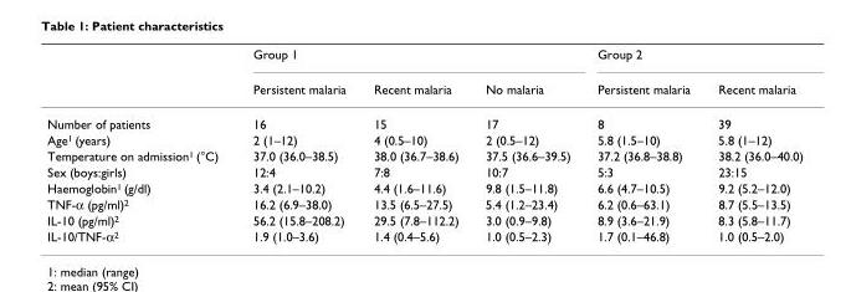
<table><thead><tr><td rowspan="2"></td><td colspan="3">Group 1</td><td colspan="2">Group 2</td></tr><tr><td>Persistent malaria</td><td>Recent malaria</td><td>No malaria</td><td>Persistent malaria</td><td>Recent malaria</td></tr></thead><tbody><tr><td>Number of patients</td><td>16</td><td>15</td><td>17</td><td>8</td><td>39</td></tr><tr><td>Age<sup>1</sup> (years)</td><td>2 (1–12)</td><td>4 (0.5–10)</td><td>2 (0.5–12)</td><td>5.8 (1.5–10)</td><td>5.8 (1–12)</td></tr><tr><td>Temperature on admission<sup>1</sup> (°C)</td><td>37.0 (36.0–38.5)</td><td>38.0 (36.7–38.6)</td><td>37.5 (36.6–39.5)</td><td>37.2 (36.8–38.8)</td><td>38.2 (36.0–40.0)</td></tr><tr><td>Sex (boys:girls)</td><td>12:4</td><td>7:8</td><td>10:7</td><td>5:3</td><td>23:15</td></tr><tr><td>Haemoglobin<sup>1</sup> (g/dl)</td><td>3.4 (2.1–10.2)</td><td>4.4 (1.6–11.6)</td><td>9.8 (1.5–11.8)</td><td>6.6 (4.7–10.5)</td><td>9.2 (5.2–12.0)</td></tr><tr><td>TNF-α (pg/ml)<sup>2</sup></td><td>16.2 (6.9–38.0)</td><td>13.5 (6.5–27.5)</td><td>5.4 (1.2–23.4)</td><td>6.2 (0.6–63.1)</td><td>8.7 (5.5–13.5)</td></tr><tr><td>IL-10 (pg/ml)<sup>2</sup></td><td>56.2 (15.8–208.2)</td><td>29.5 (7.8–112.2)</td><td>3.0 (0.9–9.8)</td><td>8.9 (3.6–21.9)</td><td>8.3 (5.8–11.7)</td></tr><tr><td>IL-10/TNF-α<sup>2</sup></td><td>1.9 (1.0–3.6)</td><td>1.4 (0.4–5.6)</td><td>1.0 (0.5–2.3)</td><td>1.7 (0.1–46.8)</td><td>1.0 (0.5–2.0)</td></tr></tbody></table>